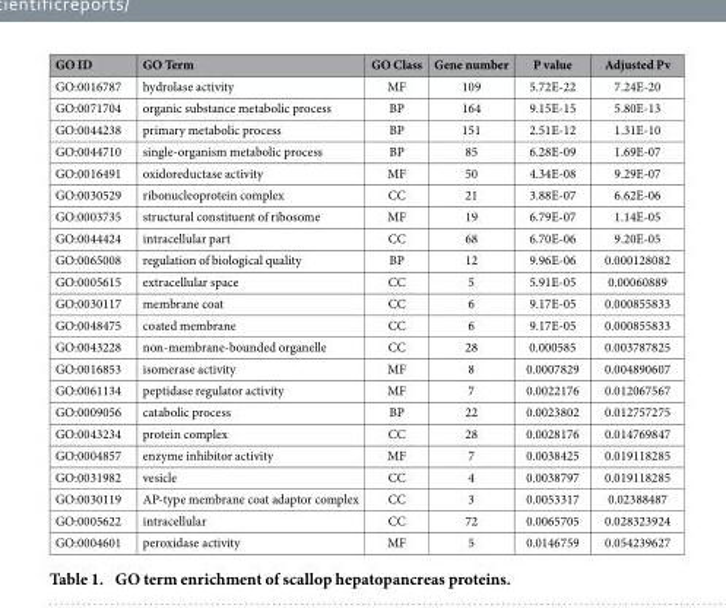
<table><thead><tr><td>GO ID</td><td>GO Term</td><td>GO Class</td><td>Gene number</td><td>P value</td><td>Adjusted Pv</td></tr></thead><tbody><tr><td>GO:0016787</td><td>hydrolase activity</td><td>MF</td><td>109</td><td>5.72E-22</td><td>7.24E-20</td></tr><tr><td>GO:0071704</td><td>organic substance metabolic process</td><td>BP</td><td>164</td><td>9.15E-15</td><td>5.80E-13</td></tr><tr><td>GO:0044238</td><td>primary metabolic process</td><td>BP</td><td>151</td><td>2.51E-12</td><td>1.31E-10</td></tr><tr><td>GO:0044710</td><td>single-organism metabolic process</td><td>BP</td><td>85</td><td>6.28E-09</td><td>1.69E-07</td></tr><tr><td>GO:0016491</td><td>oxidoreductase activity</td><td>MF</td><td>50</td><td>4.34E-08</td><td>9.29E-07</td></tr><tr><td>GO:0030529</td><td>ribonucleoprotein complex</td><td>CC</td><td>21</td><td>3.88E-07</td><td>6.62E-06</td></tr><tr><td>GO:0003735</td><td>structural constituent of ribosome</td><td>MF</td><td>19</td><td>6.79E-07</td><td>1.14E-05</td></tr><tr><td>GO:0044424</td><td>intracellular part</td><td>CC</td><td>68</td><td>6.70E-06</td><td>9.20E-05</td></tr><tr><td>GO:0065008</td><td>regulation of biological quality</td><td>BP</td><td>12</td><td>9.96E-06</td><td>0.000128082</td></tr><tr><td>GO:0005615</td><td>extracellular space</td><td>CC</td><td>5</td><td>5.91E-05</td><td>0.00060889</td></tr><tr><td>GO:0030117</td><td>membrane coat</td><td>CC</td><td>6</td><td>9.17E-05</td><td>0.000855833</td></tr><tr><td>GO:0048475</td><td>coated membrane</td><td>CC</td><td>6</td><td>9.17E-05</td><td>0.000855833</td></tr><tr><td>GO:0043228</td><td>non-membrane-bounded organelle</td><td>CC</td><td>28</td><td>0.000585</td><td>0.003787825</td></tr><tr><td>GO:0016853</td><td>isomerase activity</td><td>MF</td><td>8</td><td>0.0007829</td><td>0.004890607</td></tr><tr><td>GO:0061134</td><td>peptidase regulator activity</td><td>MF</td><td>7</td><td>0.0022176</td><td>0.012067567</td></tr><tr><td>GO:0009056</td><td>catabolic process</td><td>BP</td><td>22</td><td>0.0023802</td><td>0.012757275</td></tr><tr><td>GO:0043234</td><td>protein complex</td><td>CC</td><td>28</td><td>0.0028176</td><td>0.014769847</td></tr><tr><td>GO:0004857</td><td>enzyme inhibitor activity</td><td>MF</td><td>7</td><td>0.0038425</td><td>0.019118285</td></tr><tr><td>GO:0031982</td><td>vesicle</td><td>CC</td><td>4</td><td>0.0038797</td><td>0.019118285</td></tr><tr><td>GO:0030119</td><td>AP-type membrane coat adaptor complex</td><td>CC</td><td>3</td><td>0.0053317</td><td>0.02388487</td></tr><tr><td>GO:0005622</td><td>intracellular</td><td>CC</td><td>72</td><td>0.0065705</td><td>0.028323924</td></tr><tr><td>GO:0004601</td><td>peroxidase activity</td><td>MF</td><td>5</td><td>0.0146759</td><td>0.054239627</td></tr></tbody></table>